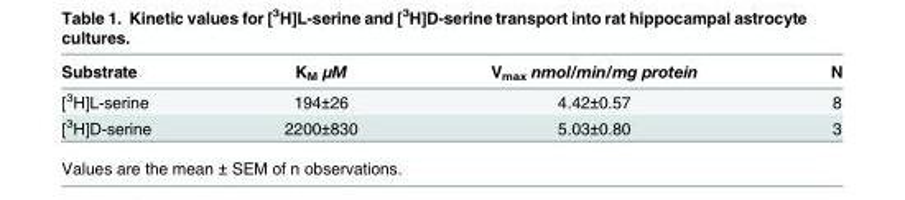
<table><thead><tr><td>Substrate</td><td>K<sub>M</sub> μM</td><td>V<sub>max</sub> nmol/min/mg protein</td><td>N</td></tr></thead><tbody><tr><td>[<sup>3</sup>H]L-serine</td><td>194±26</td><td>4.42±0.57</td><td>8</td></tr><tr><td>[<sup>3</sup>H]D-serine</td><td>2200±830</td><td>5.03±0.80</td><td>3</td></tr></tbody></table>